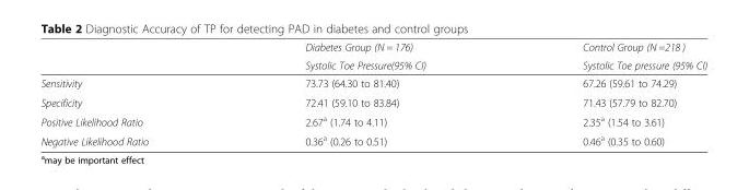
<table><thead><tr><td rowspan="2"></td><td rowspan="2">Diabetes Group (N = 176) Systolic Toe Pressure(95% CI)</td><td rowspan="2">Control Group (N =218 ) Systolic Toe pressure (95% CI)</td></tr><tr></tr></thead><tbody><tr><td>Sensitivity</td><td>73.73 (64.30 to 81.40)</td><td>67.26 (59.61 to 74.29)</td></tr><tr><td>Specificity</td><td>72.41 (59.10 to 83.84)</td><td>71.43 (57.79 to 82.70)</td></tr><tr><td>Positive Likelihood Ratio</td><td>2.67<sup>a</sup> (1.74 to 4.11)</td><td>2.35<sup>a</sup> (1.54 to 3.61)</td></tr><tr><td>Negative Likelihood Ratio</td><td>0.36<sup>a</sup> (0.26 to 0.51)</td><td>0.46<sup>a</sup> (0.35 to 0.60)</td></tr></tbody></table>